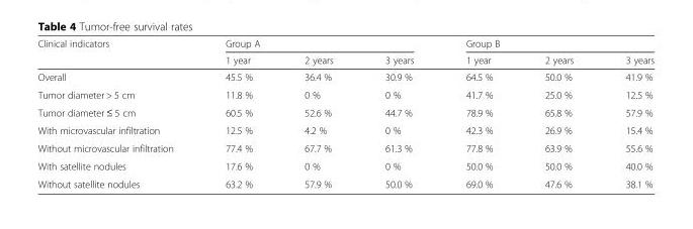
<table><thead><tr><td rowspan="2">Clinical indicators</td><td colspan="3">Group A</td><td colspan="3">Group B</td></tr><tr><td>1 year</td><td>2 years</td><td>3 years</td><td>1 year</td><td>2 years</td><td>3 years</td></tr></thead><tbody><tr><td>Overall</td><td>45.5 %</td><td>36.4 %</td><td>30.9 %</td><td>64.5 %</td><td>50.0 %</td><td>41.9 %</td></tr><tr><td>Tumor diameter &gt; 5 cm</td><td>11.8 %</td><td>0 %</td><td>0 %</td><td>41.7 %</td><td>25.0 %</td><td>12.5 %</td></tr><tr><td>Tumor diameter ≤ 5 cm</td><td>60.5 %</td><td>52.6 %</td><td>44.7 %</td><td>78.9 %</td><td>65.8 %</td><td>57.9 %</td></tr><tr><td>With microvascular infiltration</td><td>12.5 %</td><td>4.2 %</td><td>0 %</td><td>42.3 %</td><td>26.9 %</td><td>15.4 %</td></tr><tr><td>Without microvascular infiltration</td><td>77.4 %</td><td>67.7 %</td><td>61.3 %</td><td>77.8 %</td><td>63.9 %</td><td>55.6 %</td></tr><tr><td>With satellite nodules</td><td>17.6 %</td><td>0 %</td><td>0 %</td><td>50.0 %</td><td>50.0 %</td><td>40.0 %</td></tr><tr><td>Without satellite nodules</td><td>63.2 %</td><td>57.9 %</td><td>50.0 %</td><td>69.0 %</td><td>47.6 %</td><td>38.1 %</td></tr></tbody></table>